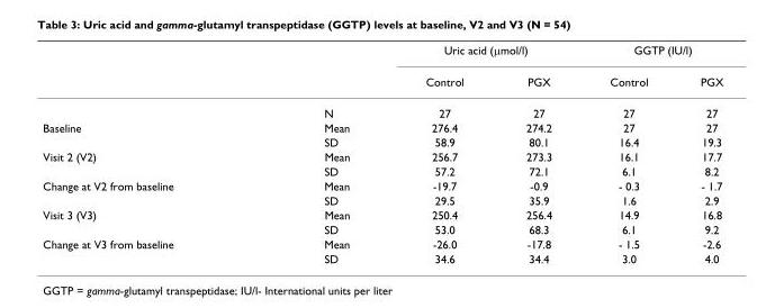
<table><thead><tr><td rowspan="2"></td><td rowspan="2"></td><td colspan="2">Uric acid (μmol/l)</td><td colspan="2">GGTP (IU/l)</td></tr><tr><td>Control</td><td>PGX</td><td>Control</td><td>PGX</td></tr></thead><tbody><tr><td></td><td>N</td><td>27</td><td>27</td><td>27</td><td>27</td></tr><tr><td rowspan="2">Baseline</td><td>Mean</td><td>276.4</td><td>274.2</td><td>27</td><td>27</td></tr><tr><td>SD</td><td>58.9</td><td>80.1</td><td>16.4</td><td>19.3</td></tr><tr><td rowspan="2">Visit 2 (V2)</td><td>Mean</td><td>256.7</td><td>273.3</td><td>16.1</td><td>17.7</td></tr><tr><td>SD</td><td>57.2</td><td>72.1</td><td>6.1</td><td>8.2</td></tr><tr><td rowspan="2">Change at V2 from baseline</td><td>Mean</td><td>-19.7</td><td>-0.9</td><td>- 0.3</td><td>- 1.7</td></tr><tr><td>SD</td><td>29.5</td><td>35.9</td><td>1.6</td><td>2.9</td></tr><tr><td rowspan="2">Visit 3 (V3)</td><td>Mean</td><td>250.4</td><td>256.4</td><td>14.9</td><td>16.8</td></tr><tr><td>SD</td><td>53.0</td><td>68.3</td><td>6.1</td><td>9.2</td></tr><tr><td rowspan="2">Change at V3 from baseline</td><td>Mean</td><td>-26.0</td><td>-17.8</td><td>- 1.5</td><td>-2.6</td></tr><tr><td>SD</td><td>34.6</td><td>34.4</td><td>3.0</td><td>4.0</td></tr></tbody></table>